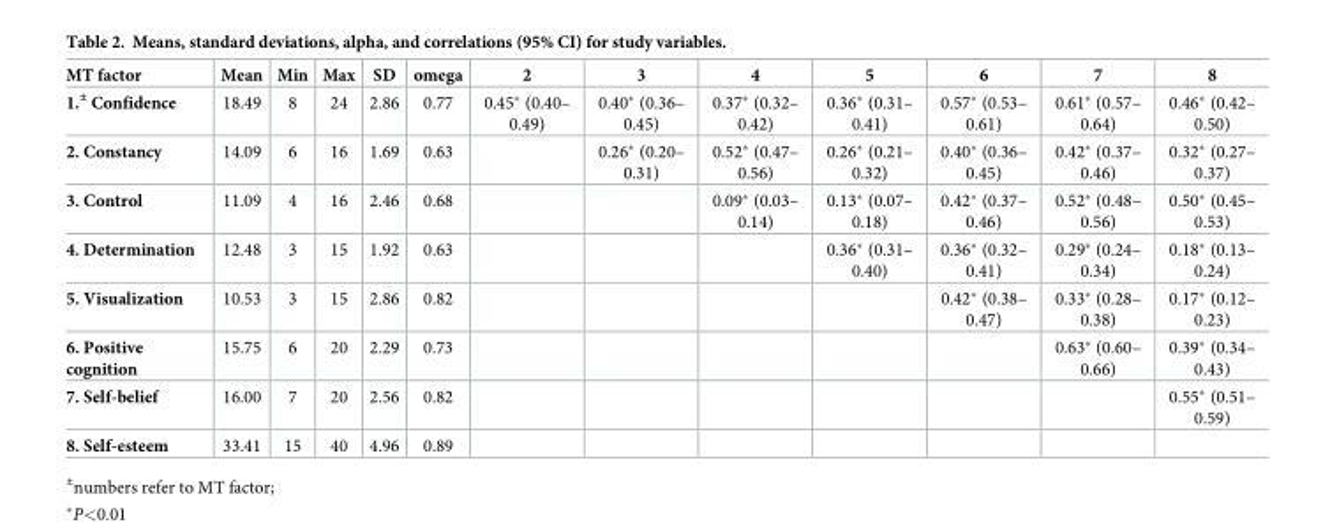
<table><thead><tr><td>MT factor</td><td>Mean</td><td>Min</td><td>Max</td><td>SD</td><td>omega</td><td>2</td><td>3</td><td>4</td><td>5</td><td>6</td><td>7</td><td>8</td></tr></thead><tbody><tr><td>1.<sup>±</sup> Confidence</td><td>18.49</td><td>8</td><td>24</td><td>2.86</td><td>0.77</td><td>0.45* (0.40– 0.49)</td><td>0.40* (0.36– 0.45)</td><td>0.37* (0.32– 0.42)</td><td>0.36* (0.31– 0.41)</td><td>0.57* (0.53– 0.61)</td><td>0.61* (0.57– 0.64)</td><td>0.46* (0.42– 0.50)</td></tr><tr><td>2. Constancy</td><td>14.09</td><td>6</td><td>16</td><td>1.69</td><td>0.63</td><td></td><td>0.26* (0.20– 0.31)</td><td>0.52* (0.47– 0.56)</td><td>0.26* (0.21– 0.32)</td><td>0.40* (0.36– 0.45)</td><td>0.42* (0.37– 0.46)</td><td>0.32* (0.27– 0.37)</td></tr><tr><td>3. Control</td><td>11.09</td><td>4</td><td>16</td><td>2.46</td><td>0.68</td><td></td><td></td><td>0.09* (0.03– 0.14)</td><td>0.13* (0.07– 0.18)</td><td>0.42* (0.37– 0.46)</td><td>0.52* (0.48– 0.56)</td><td>0.50* (0.45– 0.53)</td></tr><tr><td>4. Determination</td><td>12.48</td><td>3</td><td>15</td><td>1.92</td><td>0.63</td><td></td><td></td><td></td><td>0.36* (0.31– 0.40)</td><td>0.36* (0.32– 0.41)</td><td>0.29* (0.24– 0.34)</td><td>0.18* (0.13– 0.24)</td></tr><tr><td>5. Visualization</td><td>10.53</td><td>3</td><td>15</td><td>2.86</td><td>0.82</td><td></td><td></td><td></td><td></td><td>0.42* (0.38– 0.47)</td><td>0.33* (0.28– 0.38)</td><td>0.17* (0.12– 0.23)</td></tr><tr><td>6. Positive cognition</td><td>15.75</td><td>6</td><td>20</td><td>2.29</td><td>0.73</td><td></td><td></td><td></td><td></td><td></td><td>0.63* (0.60– 0.66)</td><td>0.39* (0.34– 0.43)</td></tr><tr><td>7. Self-belief</td><td>16.00</td><td>7</td><td>20</td><td>2.56</td><td>0.82</td><td></td><td></td><td></td><td></td><td></td><td></td><td>0.55* (0.51– 0.59)</td></tr><tr><td>8. Self-esteem</td><td>33.41</td><td>15</td><td>40</td><td>4.96</td><td>0.89</td><td></td><td></td><td></td><td></td><td></td><td></td><td></td></tr></tbody></table>